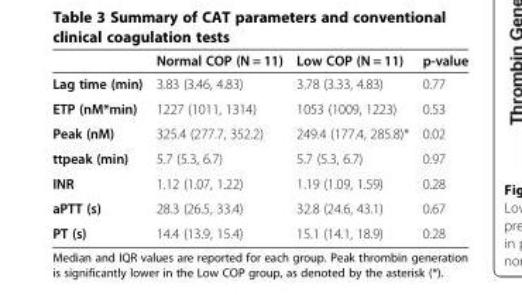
<table><thead><tr><td></td><td>Normal COP (N = 11)</td><td>Low COP (N = 11)</td><td>p-value</td></tr></thead><tbody><tr><td>Lag time (min)</td><td>3.83 (3.46, 4.83)</td><td>3.78 (3.33, 4.83)</td><td>0.77</td></tr><tr><td>ETP (nM*min)</td><td>1227 (1011, 1314)</td><td>1053 (1009, 1223)</td><td>0.53</td></tr><tr><td>Peak (nM)</td><td>325.4 (277.7, 352.2)</td><td>249.4 (177.4, 285.8)*</td><td>0.02</td></tr><tr><td>ttpeak (min)</td><td>5.7 (5.3, 6.7)</td><td>5.7 (5.3, 6.7)</td><td>0.97</td></tr><tr><td>INR</td><td>1.12 (1.07, 1.22)</td><td>1.19 (1.09, 1.59)</td><td>0.28</td></tr><tr><td>aPTT (s)</td><td>28.3 (26.5, 33.4)</td><td>32.8 (24.6, 43.1)</td><td>0.67</td></tr><tr><td>PT (s)</td><td>14.4 (13.9, 15.4)</td><td>15.1 (14.1, 18.9)</td><td>0.28</td></tr></tbody></table>